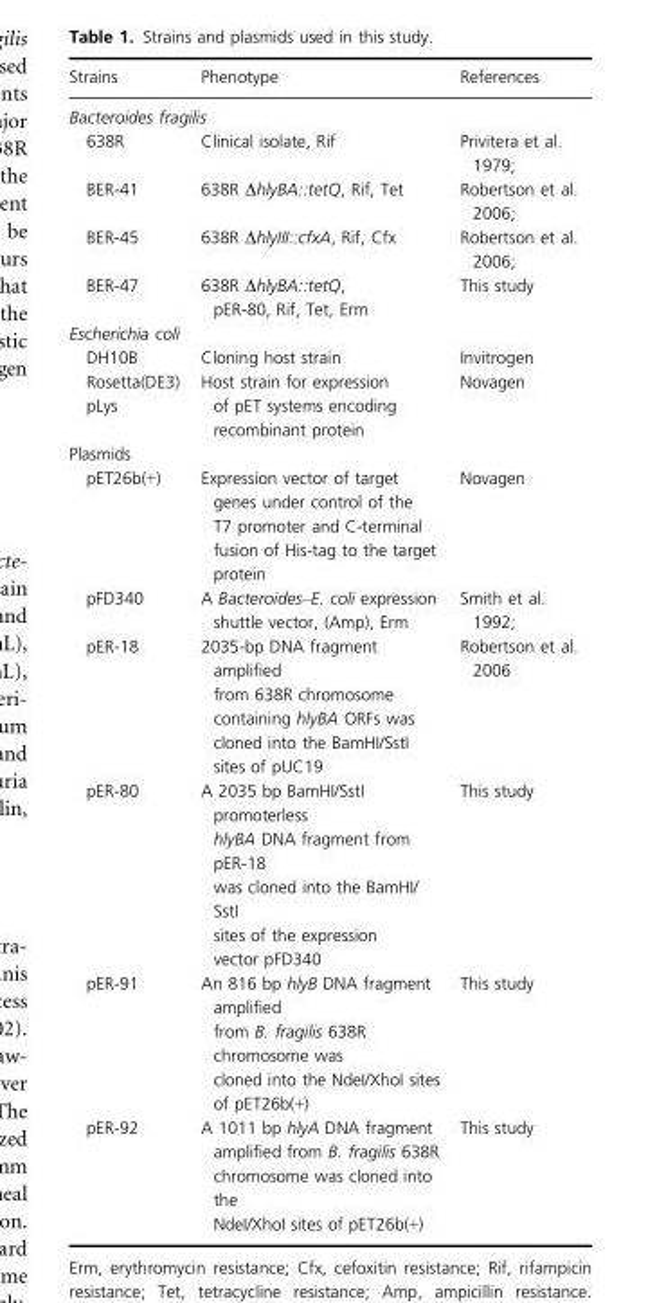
<table><thead><tr><td>Strains</td><td>Phenotype</td><td>References</td></tr></thead><tbody><tr><td colspan="3">Bacteroides fragilis</td></tr><tr><td>638R</td><td>Clinical isolate, Rif</td><td>Privitera et al. 1979;</td></tr><tr><td>BER-41</td><td>638R ΔhlyBA::tetQ, Rif, Tet</td><td>Robertson et al. 2006;</td></tr><tr><td>BER-45</td><td>638R ΔhlyIII::cfxA, Rif, Cfx</td><td>Robertson et al. 2006;</td></tr><tr><td>BER-47</td><td>638R ΔhlyBA::tetQ, pER-80, Rif, Tet, Erm</td><td>This study</td></tr><tr><td colspan="3">Escherichia coli</td></tr><tr><td>DH10B</td><td>Cloning host strain</td><td>Invitrogen</td></tr><tr><td>Rosetta(DE3) pLys</td><td>Host strain for expression of pET systems encoding recombinant protein</td><td>Novagen</td></tr><tr><td colspan="3">Plasmids</td></tr><tr><td>pET26b(+)</td><td>Expression vector of target genes under control of the T7 promoter and C-terminal fusion of His-tag to the target protein</td><td>Novagen</td></tr><tr><td>pFD340</td><td>A Bacteroides–E. coli expression shuttle vector, (Amp), Erm</td><td>Smith et al. 1992;</td></tr><tr><td>pER-18</td><td>2035-bp DNA fragment amplified from 638R chromosome containing hlyBA ORFs was cloned into the BamHI/SstI sites of pUC19</td><td>Robertson et al. 2006</td></tr><tr><td>pER-80</td><td>A 2035 bp BamHI/SstI promoterless hlyBA DNA fragment from pER-18 was cloned into the BamHI/ SstI sites of the expression vector pFD340</td><td>This study</td></tr><tr><td>pER-91</td><td>An 816 bp hlyB DNA fragment amplified from B. fragilis 638R chromosome was cloned into the NdeI/XhoI sites of pET26b(+)</td><td>This study</td></tr><tr><td>pER-92</td><td>A 1011 bp hlyA DNA fragment amplified from B. fragilis 638R chromosome was cloned into the NdeI/XhoI sites of pET26b(+)</td><td>This study</td></tr></tbody></table>